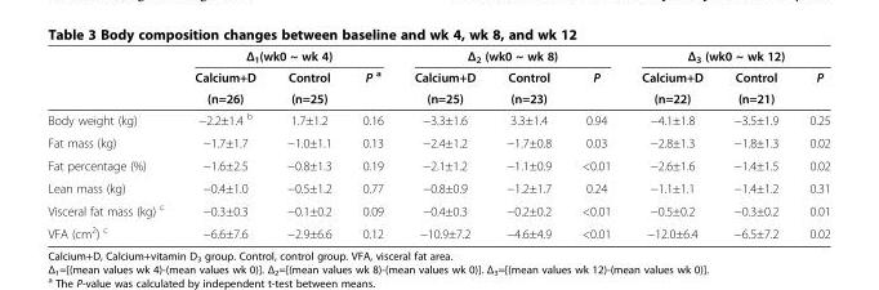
<table><thead><tr><td rowspan="3"></td><td colspan="3">Δ<sub>1</sub>(wk0 ~ wk 4)</td><td colspan="3">Δ<sub>2</sub> (wk0 ~ wk 8)</td><td colspan="3">Δ<sub>3</sub> (wk0 ~ wk 12)</td></tr><tr><td rowspan="2">Calcium+D (n=26)</td><td rowspan="2">Control (n=25)</td><td rowspan="2">P <sup>a</sup></td><td rowspan="2">Calcium+D (n=25)</td><td rowspan="2">Control (n=23)</td><td rowspan="2">P</td><td rowspan="2">Calcium+D (n=22)</td><td rowspan="2">Control (n=21)</td><td rowspan="2">P</td></tr><tr></tr></thead><tbody><tr><td>Body weight (kg)</td><td>−2.2±1.4 <sup>b</sup></td><td>1.7±1.2</td><td>0.16</td><td>−3.3±1.6</td><td>3.3±1.4</td><td>0.94</td><td>−4.1±1.8</td><td>−3.5±1.9</td><td>0.25</td></tr><tr><td>Fat mass (kg)</td><td>−1.7±1.7</td><td>−1.0±1.1</td><td>0.13</td><td>−2.4±1.2</td><td>−1.7±0.8</td><td>0.03</td><td>−2.8±1.3</td><td>−1.8±1.3</td><td>0.02</td></tr><tr><td>Fat percentage (%)</td><td>−1.6±2.5</td><td>−0.8±1.3</td><td>0.19</td><td>−2.1±1.2</td><td>−1.1±0.9</td><td>&lt;0.01</td><td>−2.6±1.6</td><td>−1.4±1.5</td><td>0.02</td></tr><tr><td>Lean mass (kg)</td><td>−0.4±1.0</td><td>−0.5±1.2</td><td>0.77</td><td>−0.8±0.9</td><td>−1.2±1.7</td><td>0.24</td><td>−1.1±1.1</td><td>−1.4±1.2</td><td>0.31</td></tr><tr><td>Visceral fat mass (kg) <sup>c</sup></td><td>−0.3±0.3</td><td>−0.1±0.2</td><td>0.09</td><td>−0.4±0.3</td><td>−0.2±0.2</td><td>&lt;0.01</td><td>−0.5±0.2</td><td>−0.3±0.2</td><td>0.01</td></tr><tr><td>VFA (cm<sup>2</sup>) <sup>c</sup></td><td>−6.6±7.6</td><td>−2.9±6.6</td><td>0.12</td><td>−10.9±7.2</td><td>−4.6±4.9</td><td>&lt;0.01</td><td>−12.0±6.4</td><td>−6.5±7.2</td><td>0.02</td></tr></tbody></table>